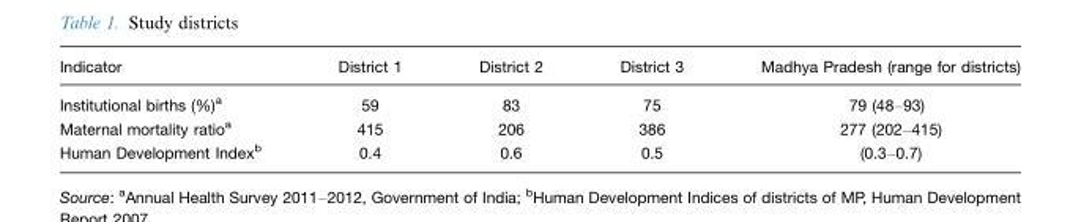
<table><thead><tr><td>Indicator</td><td>District 1</td><td>District 2</td><td>District 3</td><td>Madhya Pradesh (range for districts)</td></tr></thead><tbody><tr><td>Institutional births (%)<sup>a</sup></td><td>59</td><td>83</td><td>75</td><td>79 (48–93)</td></tr><tr><td>Maternal mortality ratio<sup>a</sup></td><td>415</td><td>206</td><td>386</td><td>277 (202–415)</td></tr><tr><td>Human Development Index<sup>b</sup></td><td>0.4</td><td>0.6</td><td>0.5</td><td>(0.3–0.7)</td></tr></tbody></table>